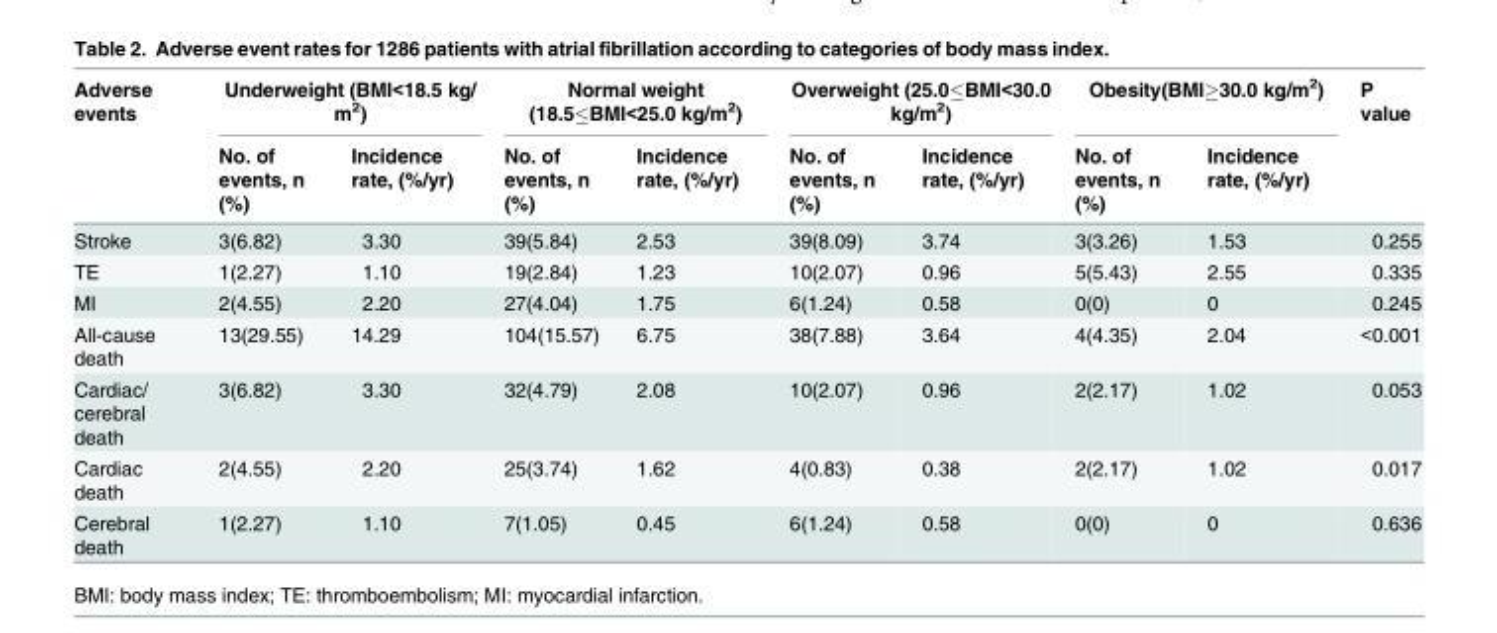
<table><thead><tr><td rowspan="2">Adverse events</td><td colspan="2">Underweight (BMI&lt;18.5 kg/ m<sup>2</sup>)</td><td colspan="2">Normal weight (18.5≤BMI&lt;25.0 kg/m<sup>2</sup>)</td><td colspan="2">Overweight (25.0≤BMI&lt;30.0 kg/m<sup>2</sup>)</td><td colspan="2">Obesity(BMI≥30.0 kg/m<sup>2</sup>)</td><td rowspan="2">P value</td></tr><tr><td>No. of events, n (%)</td><td>Incidence rate, (%/yr)</td><td>No. of events, n (%)</td><td>Incidence rate, (%/yr)</td><td>No. of events, n (%)</td><td>Incidence rate, (%/yr)</td><td>No. of events, n (%)</td><td>Incidence rate, (%/yr)</td></tr></thead><tbody><tr><td>Stroke</td><td>3(6.82)</td><td>3.30</td><td>39(5.84)</td><td>2.53</td><td>39(8.09)</td><td>3.74</td><td>3(3.26)</td><td>1.53</td><td>0.255</td></tr><tr><td>TE</td><td>1(2.27)</td><td>1.10</td><td>19(2.84)</td><td>1.23</td><td>10(2.07)</td><td>0.96</td><td>5(5.43)</td><td>2.55</td><td>0.335</td></tr><tr><td>MI</td><td>2(4.55)</td><td>2.20</td><td>27(4.04)</td><td>1.75</td><td>6(1.24)</td><td>0.58</td><td>0(0)</td><td>0</td><td>0.245</td></tr><tr><td>All-cause death</td><td>13(29.55)</td><td>14.29</td><td>104(15.57)</td><td>6.75</td><td>38(7.88)</td><td>3.64</td><td>4(4.35)</td><td>2.04</td><td>&lt;0.001</td></tr><tr><td>Cardiac/ cerebral death</td><td>3(6.82)</td><td>3.30</td><td>32(4.79)</td><td>2.08</td><td>10(2.07)</td><td>0.96</td><td>2(2.17)</td><td>1.02</td><td>0.053</td></tr><tr><td>Cardiac death</td><td>2(4.55)</td><td>2.20</td><td>25(3.74)</td><td>1.62</td><td>4(0.83)</td><td>0.38</td><td>2(2.17)</td><td>1.02</td><td>0.017</td></tr><tr><td>Cerebral death</td><td>1(2.27)</td><td>1.10</td><td>7(1.05)</td><td>0.45</td><td>6(1.24)</td><td>0.58</td><td>0(0)</td><td>0</td><td>0.636</td></tr></tbody></table>